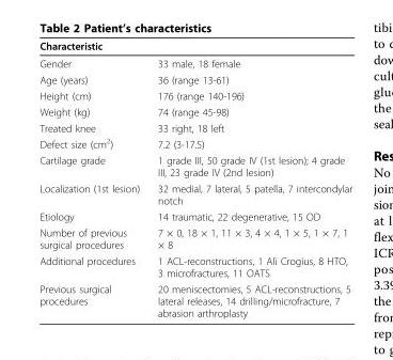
<table><thead><tr><td>Characteristic</td><td></td></tr></thead><tbody><tr><td>Gender</td><td>33 male, 18 female</td></tr><tr><td>Age (years)</td><td>36 (range 13-61)</td></tr><tr><td>Height (cm)</td><td>176 (range 140-196)</td></tr><tr><td>Weight (kg)</td><td>74 (range 45-98)</td></tr><tr><td>Treated knee</td><td>33 right, 18 left</td></tr><tr><td>Defect size (cm<sup>2</sup>)</td><td>7.2 (3-17.5)</td></tr><tr><td>Cartilage grade</td><td>1 grade III, 50 grade IV (1st lesion); 4 grade III, 23 grade IV (2nd lesion)</td></tr><tr><td>Localization (1st lesion)</td><td>32 medial, 7 lateral, 5 patella, 7 intercondylar notch</td></tr><tr><td>Etiology</td><td>14 traumatic, 22 degenerative, 15 OD</td></tr><tr><td>Number of previous surgical procedures</td><td>7 × 0, 18 × 1, 11 × 3, 4 × 4, 1 × 5, 1 × 7, 1 × 8</td></tr><tr><td>Additional procedures</td><td>1 ACL-reconstructions, 1 Ali Crogius, 8 HTO, 3 microfractures, 11 OATS</td></tr><tr><td>Previous surgical procedures</td><td>20 meniscectomies, 5 ACL-reconstructions, 5 lateral releases, 14 drilling/microfracture, 7 abrasion arthroplasty</td></tr></tbody></table>